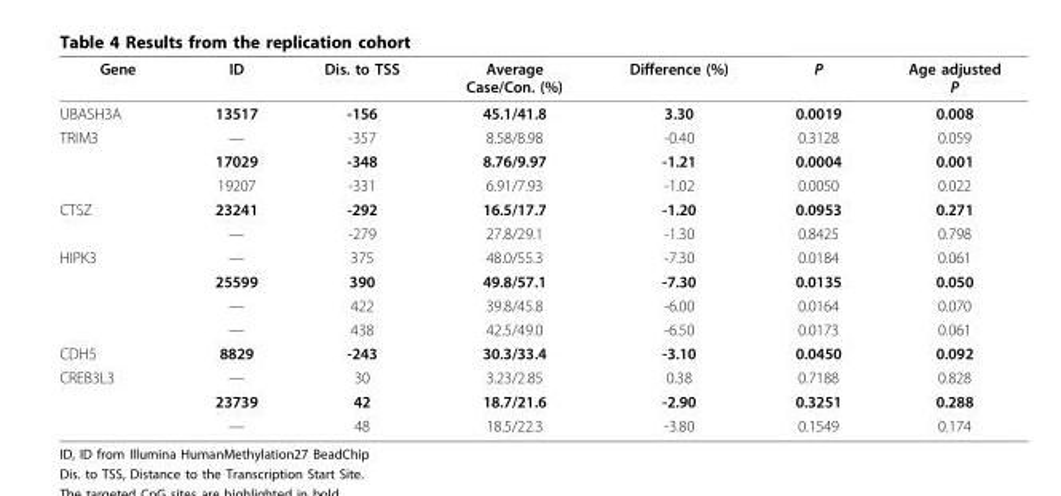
<table><thead><tr><td>Gene</td><td>ID</td><td>Dis. to TSS</td><td>Average Case/Con. (%)</td><td>Difference (%)</td><td>P</td><td>Age adjusted P</td></tr></thead><tbody><tr><td>UBASH3A</td><td>13517</td><td>-156</td><td>45.1/41.8</td><td>3.30</td><td>0.0019</td><td>0.008</td></tr><tr><td rowspan="3">TRIM3</td><td>—</td><td>-357</td><td>8.58/8.98</td><td>-0.40</td><td>0.3128</td><td>0.059</td></tr><tr><td>17029</td><td>-348</td><td>8.76/9.97</td><td>-1.21</td><td>0.0004</td><td>0.001</td></tr><tr><td>19207</td><td>-331</td><td>6.91/7.93</td><td>-1.02</td><td>0.0050</td><td>0.022</td></tr><tr><td rowspan="2">CTSZ</td><td>23241</td><td>-292</td><td>16.5/17.7</td><td>-1.20</td><td>0.0953</td><td>0.271</td></tr><tr><td>—</td><td>-279</td><td>27.8/29.1</td><td>-1.30</td><td>0.8425</td><td>0.798</td></tr><tr><td rowspan="4">HIPK3</td><td>—</td><td>375</td><td>48.0/55.3</td><td>-7.30</td><td>0.0184</td><td>0.061</td></tr><tr><td>25599</td><td>390</td><td>49.8/57.1</td><td>-7.30</td><td>0.0135</td><td>0.050</td></tr><tr><td>—</td><td>422</td><td>39.8/45.8</td><td>-6.00</td><td>0.0164</td><td>0.070</td></tr><tr><td>—</td><td>438</td><td>42.5/49.0</td><td>-6.50</td><td>0.0173</td><td>0.061</td></tr><tr><td>CDH5</td><td>8829</td><td>-243</td><td>30.3/33.4</td><td>-3.10</td><td>0.0450</td><td>0.092</td></tr><tr><td rowspan="3">CREB3L3</td><td>—</td><td>30</td><td>3.23/2.85</td><td>0.38</td><td>0.7188</td><td>0.828</td></tr><tr><td>23739</td><td>42</td><td>18.7/21.6</td><td>-2.90</td><td>0.3251</td><td>0.288</td></tr><tr><td>—</td><td>48</td><td>18.5/22.3</td><td>-3.80</td><td>0.1549</td><td>0.174</td></tr></tbody></table>